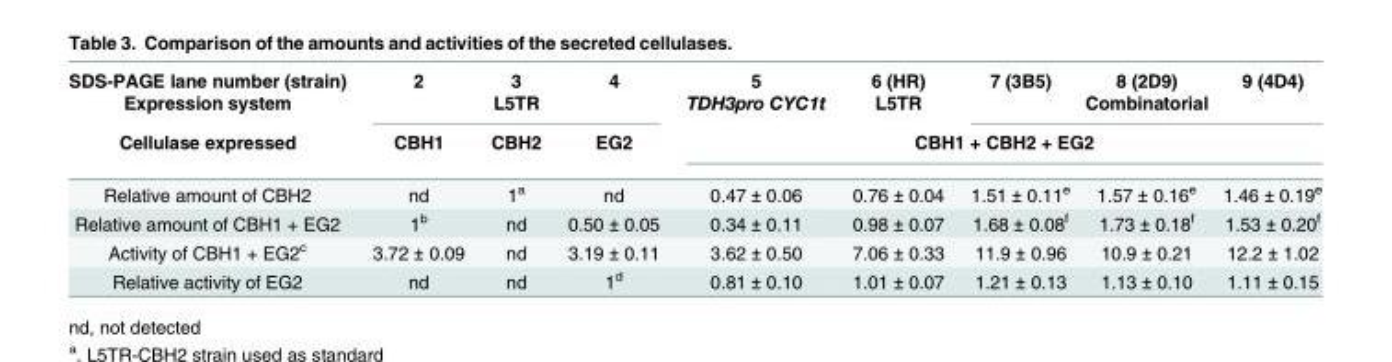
<table><thead><tr><td rowspan="3">SDS-PAGE lane number (strain) Expression system Cellulase expressed</td><td>2</td><td>3</td><td>4</td><td rowspan="2">5 TDH3pro CYC1t</td><td rowspan="2">6 (HR) L5TR</td><td>7 (3B5)</td><td>8 (2D9)</td><td>9 (4D4)</td></tr><tr><td colspan="3">L5TR</td><td colspan="3">Combinatorial</td></tr><tr><td>CBH1</td><td>CBH2</td><td>EG2</td><td colspan="5">CBH1 + CBH2 + EG2</td></tr></thead><tbody><tr><td>Relative amount of CBH2</td><td>nd</td><td>1<sup>a</sup></td><td>nd</td><td>0.47 ± 0.06</td><td>0.76 ± 0.04</td><td>1.51 ± 0.11<sup>e</sup></td><td>1.57 ± 0.16<sup>e</sup></td><td>1.46 ± 0.19<sup>e</sup></td></tr><tr><td>Relative amount of CBH1 + EG2</td><td>1<sup>b</sup></td><td>nd</td><td>0.50 ± 0.05</td><td>0.34 ± 0.11</td><td>0.98 ± 0.07</td><td>1.68 ± 0.08<sup>f</sup></td><td>1.73 ± 0.18<sup>f</sup></td><td>1.53 ± 0.20<sup>f</sup></td></tr><tr><td>Activity of CBH1 + EG2<sup>c</sup></td><td>3.72 ± 0.09</td><td>nd</td><td>3.19 ± 0.11</td><td>3.62 ± 0.50</td><td>7.06 ± 0.33</td><td>11.9 ± 0.96</td><td>10.9 ± 0.21</td><td>12.2 ± 1.02</td></tr><tr><td>Relative activity of EG2</td><td>nd</td><td>nd</td><td>1<sup>d</sup></td><td>0.81 ± 0.10</td><td>1.01 ± 0.07</td><td>1.21 ± 0.13</td><td>1.13 ± 0.10</td><td>1.11 ± 0.15</td></tr></tbody></table>